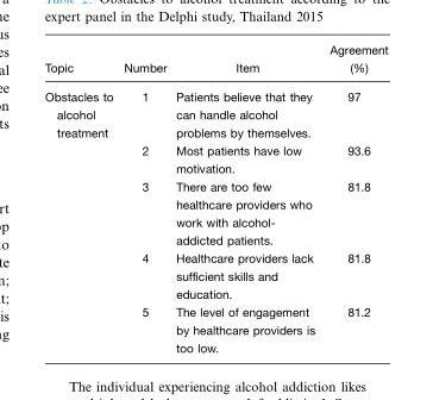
<table><thead><tr><td>Topic</td><td>Number</td><td>Item</td><td>Agreement (%)</td></tr></thead><tbody><tr><td rowspan="5">Obstacles to alcohol treatment</td><td>1</td><td>Patients believe that they can handle alcohol problems by themselves.</td><td>97</td></tr><tr><td>2</td><td>Most patients have low motivation.</td><td>93.6</td></tr><tr><td>3</td><td>There are too few healthcare providers who work with alcohol- addicted patients.</td><td>81.8</td></tr><tr><td>4</td><td>Healthcare providers lack sufficient skills and education.</td><td>81.8</td></tr><tr><td>5</td><td>The level of engagement by healthcare providers is too low.</td><td>81.2</td></tr></tbody></table>